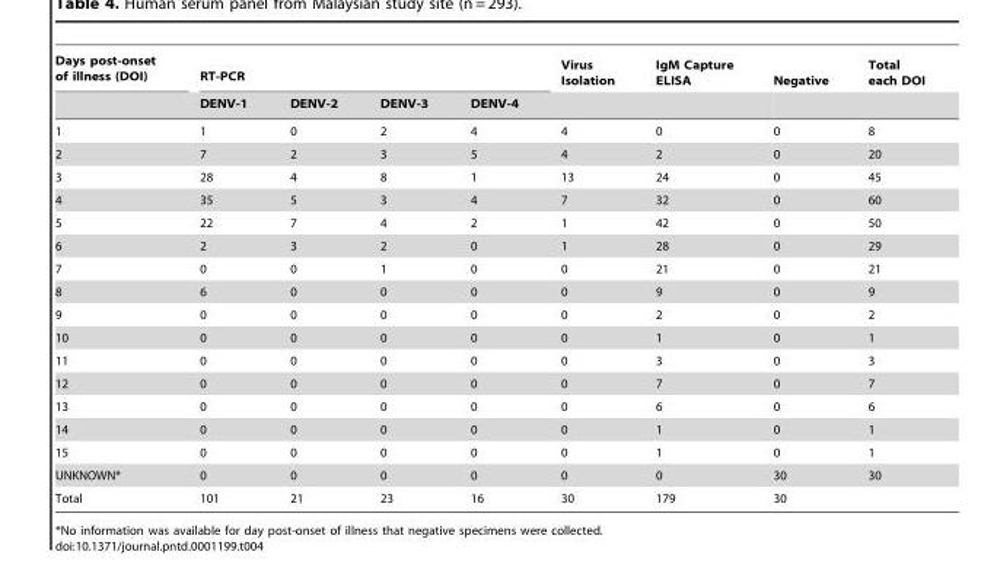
<table><thead><tr><td rowspan="2">Days post-onset of illness (DOI)</td><td colspan="4">RT-PCR</td><td rowspan="2">Virus Isolation</td><td rowspan="2">IgM Capture ELISA</td><td rowspan="2">Negative</td><td rowspan="2">Total each DOI</td></tr><tr><td>DENV-1</td><td>DENV-2</td><td>DENV-3</td><td>DENV-4</td></tr></thead><tbody><tr><td>1</td><td>1</td><td>0</td><td>2</td><td>4</td><td>4</td><td>0</td><td>0</td><td>8</td></tr><tr><td>2</td><td>7</td><td>2</td><td>3</td><td>5</td><td>4</td><td>2</td><td>0</td><td>20</td></tr><tr><td>3</td><td>28</td><td>4</td><td>8</td><td>1</td><td>13</td><td>24</td><td>0</td><td>45</td></tr><tr><td>4</td><td>35</td><td>5</td><td>3</td><td>4</td><td>7</td><td>32</td><td>0</td><td>60</td></tr><tr><td>5</td><td>22</td><td>7</td><td>4</td><td>2</td><td>1</td><td>42</td><td>0</td><td>50</td></tr><tr><td>6</td><td>2</td><td>3</td><td>2</td><td>0</td><td>1</td><td>28</td><td>0</td><td>29</td></tr><tr><td>7</td><td>0</td><td>0</td><td>1</td><td>0</td><td>0</td><td>21</td><td>0</td><td>21</td></tr><tr><td>8</td><td>6</td><td>0</td><td>0</td><td>0</td><td>0</td><td>9</td><td>0</td><td>9</td></tr><tr><td>9</td><td>0</td><td>0</td><td>0</td><td>0</td><td>0</td><td>2</td><td>0</td><td>2</td></tr><tr><td>10</td><td>0</td><td>0</td><td>0</td><td>0</td><td>0</td><td>1</td><td>0</td><td>1</td></tr><tr><td>11</td><td>0</td><td>0</td><td>0</td><td>0</td><td>0</td><td>3</td><td>0</td><td>3</td></tr><tr><td>12</td><td>0</td><td>0</td><td>0</td><td>0</td><td>0</td><td>7</td><td>0</td><td>7</td></tr><tr><td>13</td><td>0</td><td>0</td><td>0</td><td>0</td><td>0</td><td>6</td><td>0</td><td>6</td></tr><tr><td>14</td><td>0</td><td>0</td><td>0</td><td>0</td><td>0</td><td>1</td><td>0</td><td>1</td></tr><tr><td>15</td><td>0</td><td>0</td><td>0</td><td>0</td><td>0</td><td>1</td><td>0</td><td>1</td></tr><tr><td>UNKNOWN*</td><td>0</td><td>0</td><td>0</td><td>0</td><td>0</td><td>0</td><td>30</td><td>30</td></tr><tr><td>Total</td><td>101</td><td>21</td><td>23</td><td>16</td><td>30</td><td>179</td><td>30</td><td></td></tr></tbody></table>